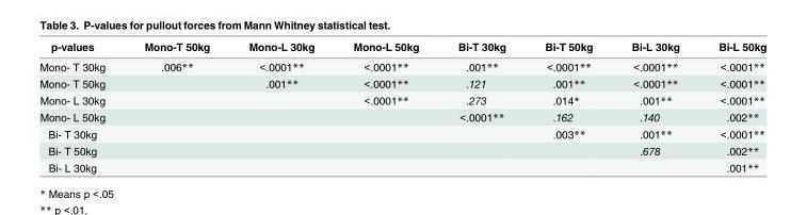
<table><thead><tr><td>p-values</td><td>Mono-T 50kg</td><td>Mono-L 30kg</td><td>Mono-L 50kg</td><td>Bi-T 30kg</td><td>Bi-T 50kg</td><td>Bi-L 30kg</td><td>Bi-L 50kg</td></tr></thead><tbody><tr><td>Mono- T 30kg</td><td>.006**</td><td>&lt;.0001**</td><td>&lt;.0001**</td><td>.001**</td><td>&lt;.0001**</td><td>&lt;.0001**</td><td>&lt;.0001**</td></tr><tr><td>Mono- T 50kg</td><td></td><td>.001**</td><td>&lt;.0001**</td><td>.121</td><td>.001**</td><td>&lt;.0001**</td><td>&lt;.0001**</td></tr><tr><td>Mono- L 30kg</td><td></td><td></td><td>&lt;.0001**</td><td>.273</td><td>.014*</td><td>.001**</td><td>&lt;.0001**</td></tr><tr><td>Mono- L 50kg</td><td></td><td></td><td></td><td>&lt;.0001**</td><td>.162</td><td>.140</td><td>.002**</td></tr><tr><td>Bi- T 30kg</td><td></td><td></td><td></td><td></td><td>.003**</td><td>.001**</td><td>&lt;.0001**</td></tr><tr><td>Bi- T 50kg</td><td></td><td></td><td></td><td></td><td></td><td>.678</td><td>.002**</td></tr><tr><td>Bi- L 30kg</td><td></td><td></td><td></td><td></td><td></td><td></td><td>.001**</td></tr></tbody></table>